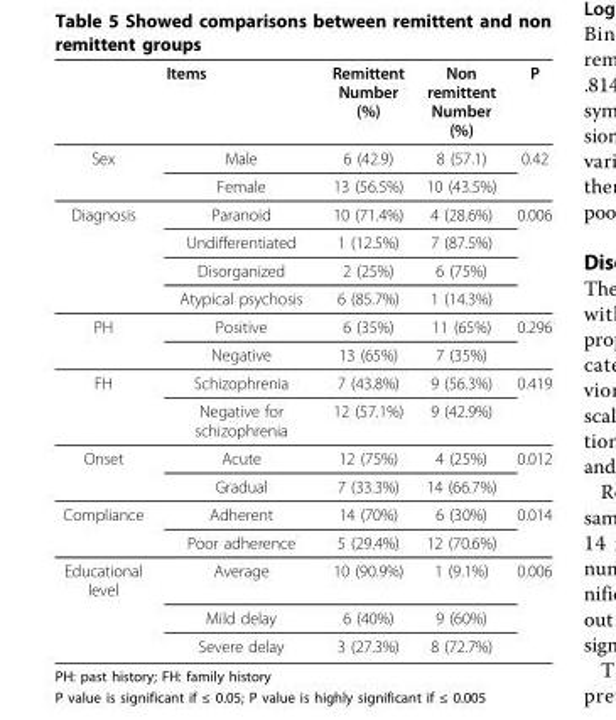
<table><thead><tr><td colspan="2">Items</td><td rowspan="2">Remittent Number (%) 6 (42.9)</td><td rowspan="2">Non remittent Number (%) 8 (57.1)</td><td rowspan="2">P 0.42</td></tr><tr><td>Sex</td><td>Male</td></tr></thead><tbody><tr><td></td><td>Female</td><td>13 (56.5%)</td><td>10 (43.5%)</td><td></td></tr><tr><td rowspan="4">Diagnosis</td><td>Paranoid</td><td>10 (71.4%)</td><td>4 (28.6%)</td><td>0.006</td></tr><tr><td>Undifferentiated</td><td>1 (12.5%)</td><td>7 (87.5%)</td><td></td></tr><tr><td>Disorganized</td><td>2 (25%)</td><td>6 (75%)</td><td></td></tr><tr><td>Atypical psychosis</td><td>6 (85.7%)</td><td>1 (14.3%)</td><td></td></tr><tr><td rowspan="2">PH</td><td>Positive</td><td>6 (35%)</td><td>11 (65%)</td><td>0.296</td></tr><tr><td>Negative</td><td>13 (65%)</td><td>7 (35%)</td><td></td></tr><tr><td rowspan="2">FH</td><td>Schizophrenia</td><td>7 (43.8%)</td><td>9 (56.3%)</td><td>0.419</td></tr><tr><td>Negative for schizophrenia</td><td>12 (57.1%)</td><td>9 (42.9%)</td><td></td></tr><tr><td rowspan="2">Onset</td><td>Acute</td><td>12 (75%)</td><td>4 (25%)</td><td>0.012</td></tr><tr><td>Gradual</td><td>7 (33.3%)</td><td>14 (66.7%)</td><td></td></tr><tr><td rowspan="2">Compliance</td><td>Adherent</td><td>14 (70%)</td><td>6 (30%)</td><td>0.014</td></tr><tr><td>Poor adherence</td><td>5 (29.4%)</td><td>12 (70.6%)</td><td></td></tr><tr><td rowspan="3">Educational level</td><td>Average</td><td>10 (90.9%)</td><td>1 (9.1%)</td><td>0.006</td></tr><tr><td>Mild delay</td><td>6 (40%)</td><td>9 (60%)</td><td></td></tr><tr><td>Severe delay</td><td>3 (27.3%)</td><td>8 (72.7%)</td><td></td></tr></tbody></table>